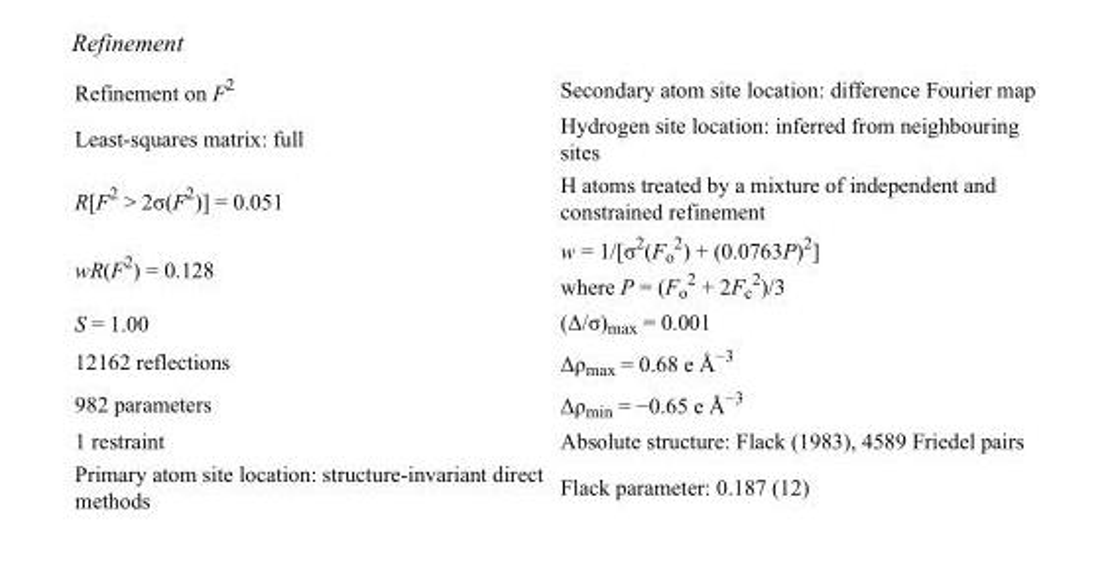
<table><tbody><tr><td>Refinement on F<sup>2</sup></td><td>Secondary atom site location: difference Fourier map</td></tr><tr><td>Least-squares matrix: full</td><td>Hydrogen site location: inferred from neighbouring sites</td></tr><tr><td>R[F<sup>2</sup> &gt; 2σ(F<sup>2</sup>)] = 0.051</td><td>H atoms treated by a mixture of independent and constrained refinement</td></tr><tr><td>wR(F<sup>2</sup>) = 0.128</td><td>w = 1/[σ<sup>2</sup>(F<sub>o</sub> <sup>2</sup>) + (0.0763P)<sup>2</sup>] where P = (F<sub>o</sub> <sup>2</sup> + 2F<sub>c</sub> <sup>2</sup>)/3</td></tr><tr><td>S = 1.00</td><td>(Δ/σ)<sub>max</sub> = 0.001</td></tr><tr><td>12162 reflections</td><td>Δρ<sub>max</sub> = 0.68 e Å<sup>−3</sup></td></tr><tr><td>982 parameters</td><td>Δρ<sub>min</sub> = −0.65 e Å<sup>−3</sup></td></tr><tr><td>1 restraint</td><td>Absolute structure: Flack (1983), 4589 Friedel pairs</td></tr><tr><td>Primary atom site location: structure-invariant direct methods</td><td>Flack parameter: 0.187 (12)</td></tr></tbody></table>